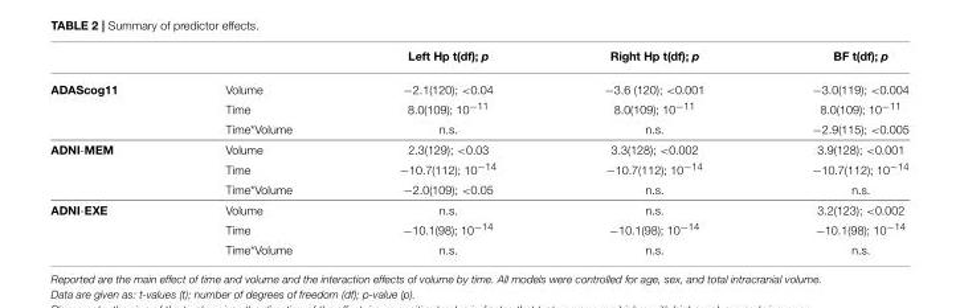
<table><thead><tr><td></td><td></td><td>Left Hp t(df); p</td><td>Right Hp t(df); p</td><td>BF t(df); p</td></tr></thead><tbody><tr><td rowspan="3">ADAScog11</td><td>Volume</td><td>−2.1(120); &lt;0.04</td><td>−3.6 (120); &lt;0.001</td><td>−3.0(119); &lt;0.004</td></tr><tr><td>Time</td><td>8.0(109); 10<sup>−11</sup></td><td>8.0(109); 10<sup>−11</sup></td><td>8.0(109); 10<sup>−11</sup></td></tr><tr><td>Time*Volume</td><td>n.s.</td><td>n.s.</td><td>−2.9(115); &lt;0.005</td></tr><tr><td rowspan="3">ADNI-MEM</td><td>Volume</td><td>2.3(129); &lt;0.03</td><td>3.3(128); &lt;0.002</td><td>3.9(128); &lt;0.001</td></tr><tr><td>Time</td><td>−10.7(112); 10<sup>−14</sup></td><td>−10.7(112); 10<sup>−14</sup></td><td>−10.7(112); 10<sup>−14</sup></td></tr><tr><td>Time*Volume</td><td>−2.0(109); &lt;0.05</td><td>n.s.</td><td>n.s.</td></tr><tr><td rowspan="3">ADNI-EXE</td><td>Volume</td><td>n.s.</td><td>n.s.</td><td>3.2(123); &lt;0.002</td></tr><tr><td>Time</td><td>−10.1(98); 10<sup>−14</sup></td><td>−10.1(98); 10<sup>−14</sup></td><td>−10.1(98); 10<sup>−14</sup></td></tr><tr><td>Time*Volume</td><td>n.s.</td><td>n.s.</td><td>n.s.</td></tr></tbody></table>